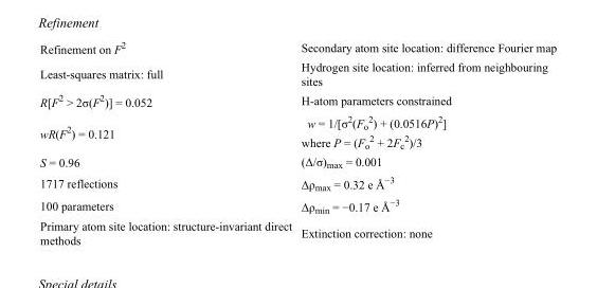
<table><tbody><tr><td>Refinement on F<sup>2</sup></td><td>Secondary atom site location: difference Fourier map</td></tr><tr><td>Least-squares matrix: full</td><td>Hydrogen site location: inferred from neighbouring sites</td></tr><tr><td>R[F<sup>2</sup> &gt; 2σ(F<sup>2</sup>)] = 0.052</td><td>H-atom parameters constrained</td></tr><tr><td>wR(F<sup>2</sup>) = 0.121</td><td>w = 1/[σ<sup>2</sup>(F<sub>o</sub> <sup>2</sup>) + (0.0516P)<sup>2</sup>] where P = (F<sub>o</sub> <sup>2</sup> + 2F<sub>c</sub> <sup>2</sup>)/3</td></tr><tr><td>S = 0.96</td><td>(Δ/σ)<sub>max</sub> = 0.001</td></tr><tr><td>1717 reflections</td><td>Δρ<sub>max</sub> = 0.32 e Å<sup>−3</sup></td></tr><tr><td>100 parameters</td><td>Δρ<sub>min</sub> = −0.17 e Å<sup>−3</sup></td></tr><tr><td>Primary atom site location: structure-invariant direct methods</td><td>Extinction correction: none</td></tr></tbody></table>